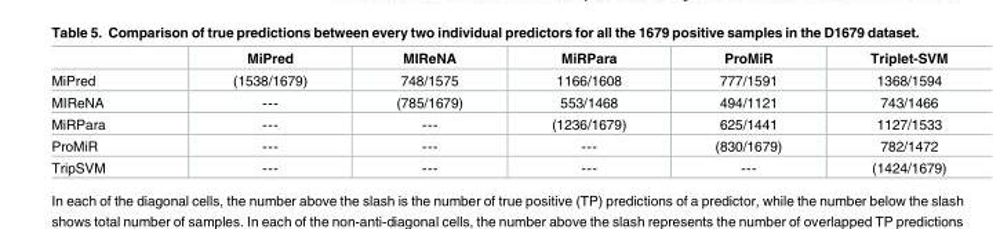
<table><thead><tr><td></td><td>MiPred</td><td>MIReNA</td><td>MiRPara</td><td>ProMiR</td><td>Triplet-SVM</td></tr></thead><tbody><tr><td>MiPred</td><td>(1538/1679)</td><td>748/1575</td><td>1166/1608</td><td>777/1591</td><td>1368/1594</td></tr><tr><td>MIReNA</td><td>---</td><td>(785/1679)</td><td>553/1468</td><td>494/1121</td><td>743/1466</td></tr><tr><td>MiRPara</td><td>---</td><td>---</td><td>(1236/1679)</td><td>625/1441</td><td>1127/1533</td></tr><tr><td>ProMiR</td><td>---</td><td>---</td><td>---</td><td>(830/1679)</td><td>782/1472</td></tr><tr><td>TripSVM</td><td>---</td><td>---</td><td>---</td><td>---</td><td>(1424/1679)</td></tr></tbody></table>